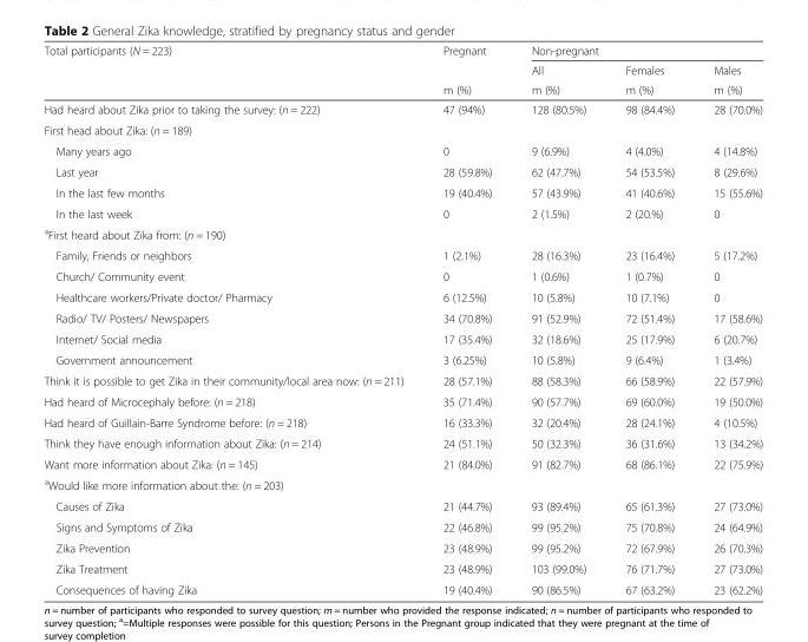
<table><thead><tr><td rowspan="3">Total participants (N = 223)</td><td rowspan="3">Pregnant m (%)</td><td colspan="3">Non-pregnant</td></tr><tr><td rowspan="2">All m (%)</td><td rowspan="2">Females m (%)</td><td rowspan="2">Males m (%)</td></tr><tr></tr></thead><tbody><tr><td>Had heard about Zika prior to taking the survey: (n = 222)</td><td>47 (94%)</td><td>128 (80.5%)</td><td>98 (84.4%)</td><td>28 (70.0%)</td></tr><tr><td colspan="5">First head about Zika: (n = 189)</td></tr><tr><td>Many years ago</td><td>0</td><td>9 (6.9%)</td><td>4 (4.0%)</td><td>4 (14.8%)</td></tr><tr><td>Last year</td><td>28 (59.8%)</td><td>62 (47.7%)</td><td>54 (53.5%)</td><td>8 (29.6%)</td></tr><tr><td>In the last few months</td><td>19 (40.4%)</td><td>57 (43.9%)</td><td>41 (40.6%)</td><td>15 (55.6%)</td></tr><tr><td>In the last week</td><td>0</td><td>2 (1.5%)</td><td>2 (20.%)</td><td>0</td></tr><tr><td colspan="5"><sup>a</sup>First heard about Zika from: (n = 190)</td></tr><tr><td>Family, Friends or neighbors</td><td>1 (2.1%)</td><td>28 (16.3%)</td><td>23 (16.4%)</td><td>5 (17.2%)</td></tr><tr><td>Church/ Community event</td><td>0</td><td>1 (0.6%)</td><td>1 (0.7%)</td><td>0</td></tr><tr><td>Healthcare workers/Private doctor/ Pharmacy</td><td>6 (12.5%)</td><td>10 (5.8%)</td><td>10 (7.1%)</td><td>0</td></tr><tr><td>Radio/ TV/ Posters/ Newspapers</td><td>34 (70.8%)</td><td>91 (52.9%)</td><td>72 (51.4%)</td><td>17 (58.6%)</td></tr><tr><td>Internet/ Social media</td><td>17 (35.4%)</td><td>32 (18.6%)</td><td>25 (17.9%)</td><td>6 (20.7%)</td></tr><tr><td>Government announcement</td><td>3 (6.25%)</td><td>10 (5.8%)</td><td>9 (6.4%)</td><td>1 (3.4%)</td></tr><tr><td>Think it is possible to get Zika in their community/local area now: (n = 211)</td><td>28 (57.1%)</td><td>88 (58.3%)</td><td>66 (58.9%)</td><td>22 (57.9%)</td></tr><tr><td>Had heard of Microcephaly before: (n = 218)</td><td>35 (71.4%)</td><td>90 (57.7%)</td><td>69 (60.0%)</td><td>19 (50.0%)</td></tr><tr><td>Had heard of Guillain-Barre Syndrome before: (n = 218)</td><td>16 (33.3%)</td><td>32 (20.4%)</td><td>28 (24.1%)</td><td>4 (10.5%)</td></tr><tr><td>Think they have enough information about Zika: (n = 214)</td><td>24 (51.1%)</td><td>50 (32.3%)</td><td>36 (31.6%)</td><td>13 (34.2%)</td></tr><tr><td>Want more information about Zika: (n = 145)</td><td>21 (84.0%)</td><td>91 (82.7%)</td><td>68 (86.1%)</td><td>22 (75.9%)</td></tr><tr><td colspan="5"><sup>a</sup>Would like more information about the: (n = 203)</td></tr><tr><td>Causes of Zika</td><td>21 (44.7%)</td><td>93 (89.4%)</td><td>65 (61.3%)</td><td>27 (73.0%)</td></tr><tr><td>Signs and Symptoms of Zika</td><td>22 (46.8%)</td><td>99 (95.2%)</td><td>75 (70.8%)</td><td>24 (64.9%)</td></tr><tr><td>Zika Prevention</td><td>23 (48.9%)</td><td>99 (95.2%)</td><td>72 (67.9%)</td><td>26 (70.3%)</td></tr><tr><td>Zika Treatment</td><td>23 (48.9%)</td><td>103 (99.0%)</td><td>76 (71.7%)</td><td>27 (73.0%)</td></tr><tr><td>Consequences of having Zika</td><td>19 (40.4%)</td><td>90 (86.5%)</td><td>67 (63.2%)</td><td>23 (62.2%)</td></tr></tbody></table>